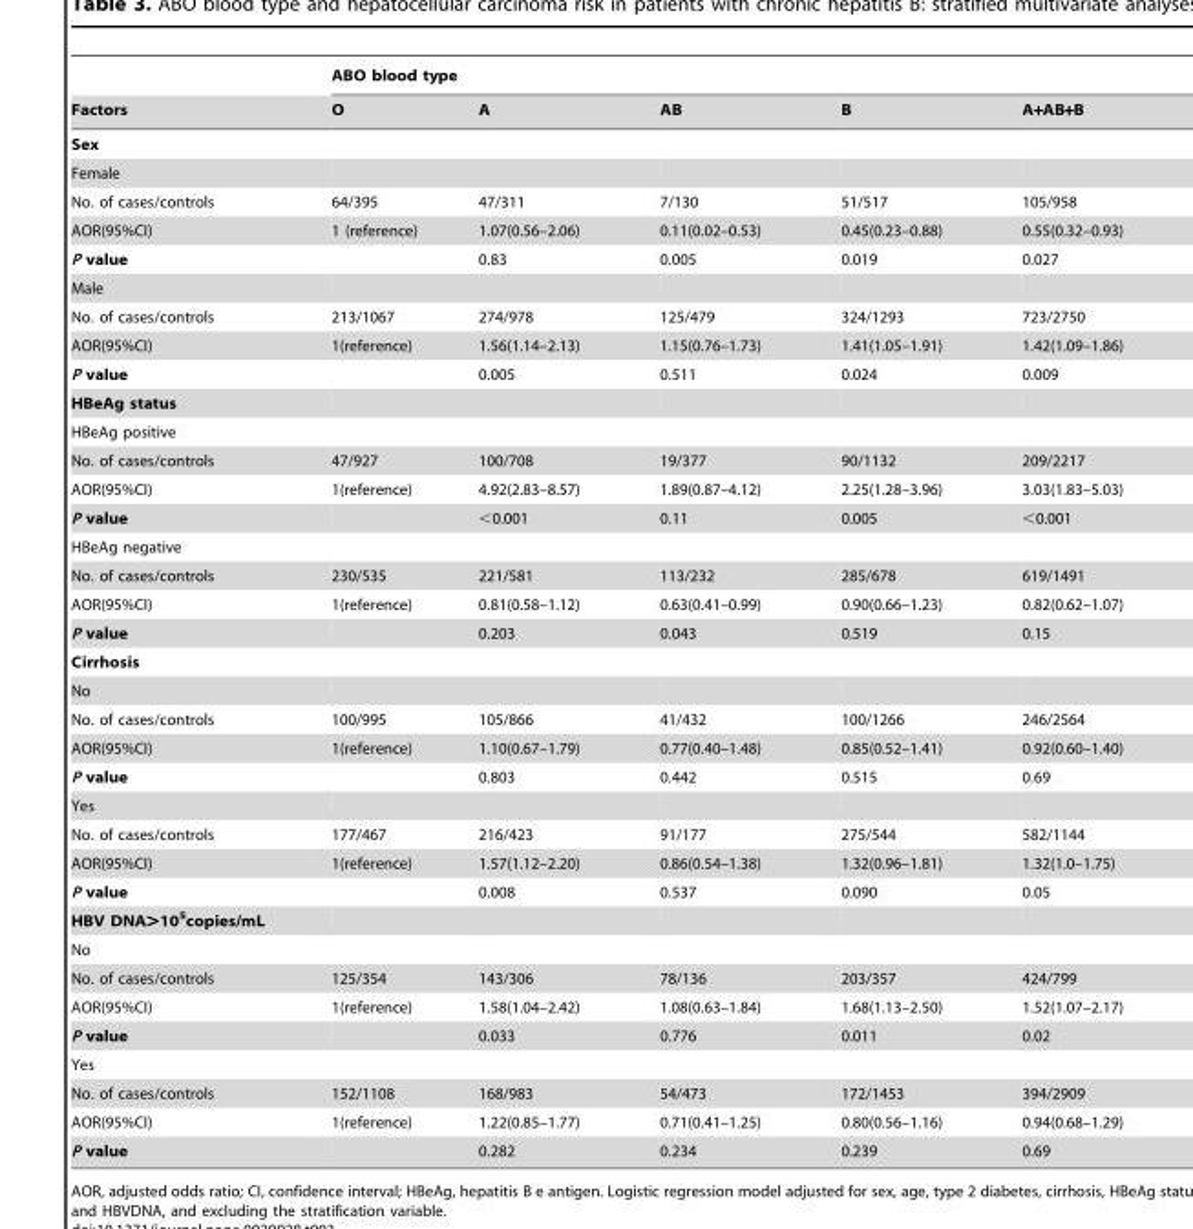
<table><thead><tr><td rowspan="2">Factors</td><td colspan="5">ABO blood type</td></tr><tr><td>O</td><td>A</td><td>AB</td><td>B</td><td>A+AB+B</td></tr></thead><tbody><tr><td colspan="6">Sex</td></tr><tr><td colspan="6">Female</td></tr><tr><td>No. of cases/controls</td><td>64/395</td><td>47/311</td><td>7/130</td><td>51/517</td><td>105/958</td></tr><tr><td>AOR(95%CI)</td><td>1 (reference)</td><td>1.07(0.56–2.06)</td><td>0.11(0.02–0.53)</td><td>0.45(0.23–0.88)</td><td>0.55(0.32–0.93)</td></tr><tr><td>P value</td><td></td><td>0.83</td><td>0.005</td><td>0.019</td><td>0.027</td></tr><tr><td colspan="6">Male</td></tr><tr><td>No. of cases/controls</td><td>213/1067</td><td>274/978</td><td>125/479</td><td>324/1293</td><td>723/2750</td></tr><tr><td>AOR(95%CI)</td><td>1(reference)</td><td>1.56(1.14–2.13)</td><td>1.15(0.76–1.73)</td><td>1.41(1.05–1.91)</td><td>1.42(1.09–1.86)</td></tr><tr><td>P value</td><td></td><td>0.005</td><td>0.511</td><td>0.024</td><td>0.009</td></tr><tr><td colspan="6">HBeAg status</td></tr><tr><td colspan="6">HBeAg positive</td></tr><tr><td>No. of cases/controls</td><td>47/927</td><td>100/708</td><td>19/377</td><td>90/1132</td><td>209/2217</td></tr><tr><td>AOR(95%CI)</td><td>1(reference)</td><td>4.92(2.83–8.57)</td><td>1.89(0.87–4.12)</td><td>2.25(1.28–3.96)</td><td>3.03(1.83–5.03)</td></tr><tr><td>P value</td><td></td><td>&lt;0.001</td><td>0.11</td><td>0.005</td><td>&lt;0.001</td></tr><tr><td colspan="6">HBeAg negative</td></tr><tr><td>No. of cases/controls</td><td>230/535</td><td>221/581</td><td>113/232</td><td>285/678</td><td>619/1491</td></tr><tr><td>AOR(95%CI)</td><td>1(reference)</td><td>0.81(0.58–1.12)</td><td>0.63(0.41–0.99)</td><td>0.90(0.66–1.23)</td><td>0.82(0.62–1.07)</td></tr><tr><td>P value</td><td></td><td>0.203</td><td>0.043</td><td>0.519</td><td>0.15</td></tr><tr><td colspan="6">Cirrhosis</td></tr><tr><td colspan="6">No</td></tr><tr><td>No. of cases/controls</td><td>100/995</td><td>105/866</td><td>41/432</td><td>100/1266</td><td>246/2564</td></tr><tr><td>AOR(95%CI)</td><td>1(reference)</td><td>1.10(0.67–1.79)</td><td>0.77(0.40–1.48)</td><td>0.85(0.52–1.41)</td><td>0.92(0.60–1.40)</td></tr><tr><td>P value</td><td></td><td>0.803</td><td>0.442</td><td>0.515</td><td>0.69</td></tr><tr><td colspan="6">Yes</td></tr><tr><td>No. of cases/controls</td><td>177/467</td><td>216/423</td><td>91/177</td><td>275/544</td><td>582/1144</td></tr><tr><td>AOR(95%CI)</td><td>1(reference)</td><td>1.57(1.12–2.20)</td><td>0.86(0.54–1.38)</td><td>1.32(0.96–1.81)</td><td>1.32(1.0–1.75)</td></tr><tr><td>P value</td><td></td><td>0.008</td><td>0.537</td><td>0.090</td><td>0.05</td></tr><tr><td colspan="6">HBV DNA&gt;10<sup>5</sup>copies/mL</td></tr><tr><td colspan="6">No</td></tr><tr><td>No. of cases/controls</td><td>125/354</td><td>143/306</td><td>78/136</td><td>203/357</td><td>424/799</td></tr><tr><td>AOR(95%CI)</td><td>1(reference)</td><td>1.58(1.04–2.42)</td><td>1.08(0.63–1.84)</td><td>1.68(1.13–2.50)</td><td>1.52(1.07–2.17)</td></tr><tr><td>P value</td><td></td><td>0.033</td><td>0.776</td><td>0.011</td><td>0.02</td></tr><tr><td colspan="6">Yes</td></tr><tr><td>No. of cases/controls</td><td>152/1108</td><td>168/983</td><td>54/473</td><td>172/1453</td><td>394/2909</td></tr><tr><td>AOR(95%CI)</td><td>1(reference)</td><td>1.22(0.85–1.77)</td><td>0.71(0.41–1.25)</td><td>0.80(0.56–1.16)</td><td>0.94(0.68–1.29)</td></tr><tr><td>P value</td><td></td><td>0.282</td><td>0.234</td><td>0.239</td><td>0.69</td></tr></tbody></table>